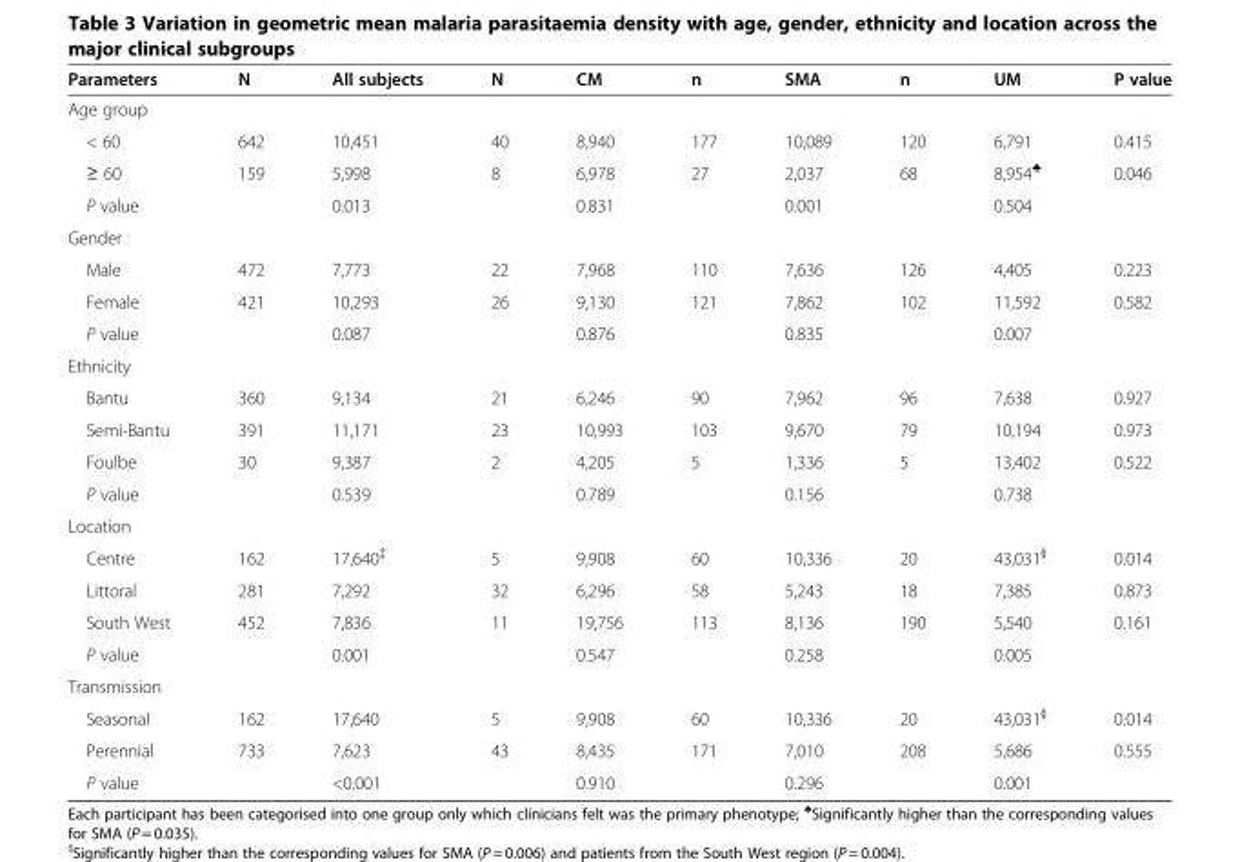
<table><thead><tr><td>Parameters</td><td>N</td><td>All subjects</td><td>N</td><td>CM</td><td>n</td><td>SMA</td><td>n</td><td>UM</td><td>P value</td></tr></thead><tbody><tr><td colspan="10">Age group</td></tr><tr><td>&lt; 60</td><td>642</td><td>10,451</td><td>40</td><td>8,940</td><td>177</td><td>10,089</td><td>120</td><td>6,791</td><td>0.415</td></tr><tr><td>≥ 60</td><td>159</td><td>5,998</td><td>8</td><td>6,978</td><td>27</td><td>2,037</td><td>68</td><td>8,954<sup>♣</sup></td><td>0.046</td></tr><tr><td>P value</td><td></td><td>0.013</td><td></td><td>0.831</td><td></td><td>0.001</td><td></td><td>0.504</td><td></td></tr><tr><td colspan="10">Gender</td></tr><tr><td>Male</td><td>472</td><td>7,773</td><td>22</td><td>7,968</td><td>110</td><td>7,636</td><td>126</td><td>4,405</td><td>0.223</td></tr><tr><td>Female</td><td>421</td><td>10,293</td><td>26</td><td>9,130</td><td>121</td><td>7,862</td><td>102</td><td>11,592</td><td>0.582</td></tr><tr><td>P value</td><td></td><td>0.087</td><td></td><td>0.876</td><td></td><td>0.835</td><td></td><td>0.007</td><td></td></tr><tr><td colspan="10">Ethnicity</td></tr><tr><td>Bantu</td><td>360</td><td>9,134</td><td>21</td><td>6,246</td><td>90</td><td>7,962</td><td>96</td><td>7,638</td><td>0.927</td></tr><tr><td>Semi-Bantu</td><td>391</td><td>11,171</td><td>23</td><td>10,993</td><td>103</td><td>9,670</td><td>79</td><td>10,194</td><td>0.973</td></tr><tr><td>Foulbe</td><td>30</td><td>9,387</td><td>2</td><td>4,205</td><td>5</td><td>1,336</td><td>5</td><td>13,402</td><td>0.522</td></tr><tr><td>P value</td><td></td><td>0.539</td><td></td><td>0.789</td><td></td><td>0.156</td><td></td><td>0.738</td><td></td></tr><tr><td colspan="10">Location</td></tr><tr><td>Centre</td><td>162</td><td>17,640<sup>‡</sup></td><td>5</td><td>9,908</td><td>60</td><td>10,336</td><td>20</td><td>43,031<sup>§</sup></td><td>0.014</td></tr><tr><td>Littoral</td><td>281</td><td>7,292</td><td>32</td><td>6,296</td><td>58</td><td>5,243</td><td>18</td><td>7,385</td><td>0.873</td></tr><tr><td>South West</td><td>452</td><td>7,836</td><td>11</td><td>19,756</td><td>113</td><td>8,136</td><td>190</td><td>5,540</td><td>0.161</td></tr><tr><td>P value</td><td></td><td>0.001</td><td></td><td>0.547</td><td></td><td>0.258</td><td></td><td>0.005</td><td></td></tr><tr><td colspan="10">Transmission</td></tr><tr><td>Seasonal</td><td>162</td><td>17,640</td><td>5</td><td>9,908</td><td>60</td><td>10,336</td><td>20</td><td>43,031<sup>§</sup></td><td>0.014</td></tr><tr><td>Perennial</td><td>733</td><td>7,623</td><td>43</td><td>8,435</td><td>171</td><td>7,010</td><td>208</td><td>5,686</td><td>0.555</td></tr><tr><td>P value</td><td></td><td>&lt;0.001</td><td></td><td>0.910</td><td></td><td>0.296</td><td></td><td>0.001</td><td></td></tr></tbody></table>